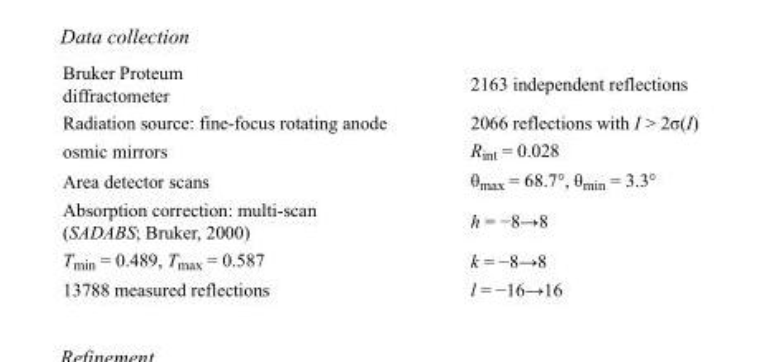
<table><tbody><tr><td>Bruker Proteum diffractometer</td><td>2163 independent reflections</td></tr><tr><td>Radiation source: fine-focus rotating anode</td><td>2066 reflections with I &gt; 2σ(I)</td></tr><tr><td>osmic mirrors</td><td>R<sub>int</sub> = 0.028</td></tr><tr><td>Area detector scans</td><td>θ<sub>max</sub> = 68.7°, θ<sub>min</sub> = 3.3°</td></tr><tr><td>Absorption correction: multi-scan (SADABS; Bruker, 2000)</td><td>h = −8→8</td></tr><tr><td>T<sub>min</sub> = 0.489, T<sub>max</sub> = 0.587</td><td>k = −8→8</td></tr><tr><td>13788 measured reflections</td><td>l = −16→16</td></tr></tbody></table>